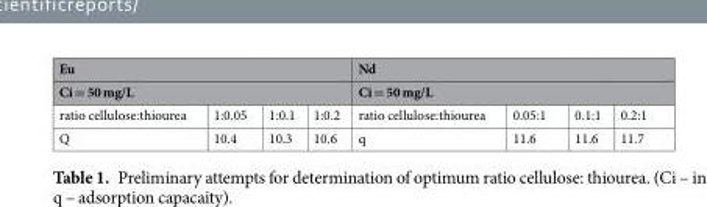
<table><thead><tr><td rowspan="2" colspan="4">Eu Ci = 50 mg/L</td><td rowspan="2" colspan="4">Nd Ci = 50 mg/L</td></tr><tr></tr><tr><td>ratio cellulose:thiourea</td><td>1:0.05</td><td>1:0.1</td><td>1:0.2</td><td>ratio cellulose:thiourea</td><td>0.05:1</td><td>0.1:1</td><td>0.2:1</td></tr></thead><tbody><tr><td>Q</td><td>10.4</td><td>10.3</td><td>10.6</td><td>q</td><td>11.6</td><td>11.6</td><td>11.7</td></tr></tbody></table>